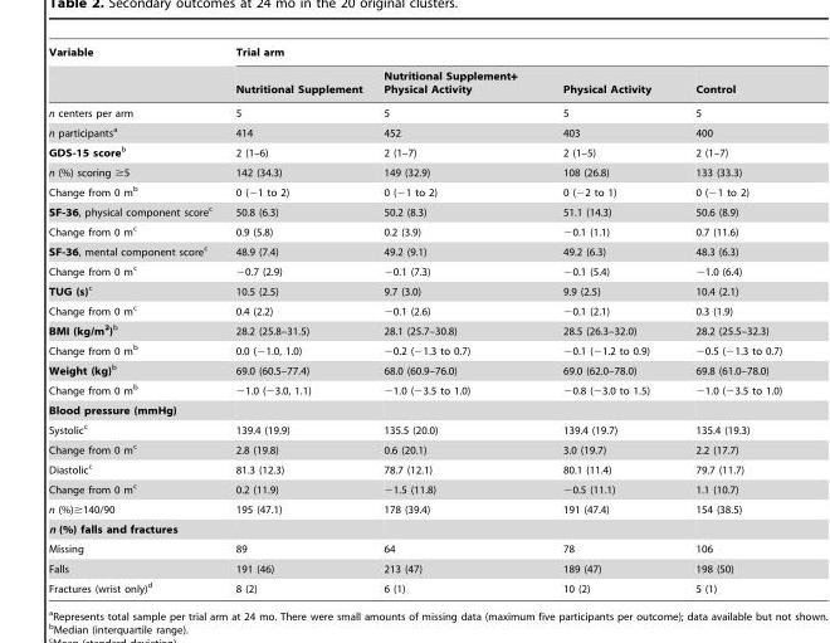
<table><thead><tr><td rowspan="2">Variable</td><td colspan="4">Trial arm</td></tr><tr><td>Nutritional Supplement</td><td>Nutritional Supplement+ Physical Activity</td><td>Physical Activity</td><td>Control</td></tr></thead><tbody><tr><td>n centers per arm</td><td>5</td><td>5</td><td>5</td><td>5</td></tr><tr><td>n participants<sup>a</sup></td><td>414</td><td>452</td><td>403</td><td>400</td></tr><tr><td>GDS-15 scoreb</td><td>2 (1–6)</td><td>2 (1–7)</td><td>2 (1–5)</td><td>2 (1–7)</td></tr><tr><td>n (%) scoring ≥5</td><td>142 (34.3)</td><td>149 (32.9)</td><td>108 (26.8)</td><td>133 (33.3)</td></tr><tr><td>Change from 0 m<sup>b</sup></td><td>0 (−1 to 2)</td><td>0 (−1 to 2)</td><td>0 (−2 to 1)</td><td>0 (−1 to 2)</td></tr><tr><td>SF-36, physical component score<sup>c</sup></td><td>50.8 (6.3)</td><td>50.2 (8.3)</td><td>51.1 (14.3)</td><td>50.6 (8.9)</td></tr><tr><td>Change from 0 m<sup>c</sup></td><td>0.9 (5.8)</td><td>0.2 (3.9)</td><td>−0.1 (1.1)</td><td>0.7 (11.6)</td></tr><tr><td>SF-36, mental component score<sup>c</sup></td><td>48.9 (7.4)</td><td>49.2 (9.1)</td><td>49.2 (6.3)</td><td>48.3 (6.3)</td></tr><tr><td>Change from 0 m<sup>c</sup></td><td>−0.7 (2.9)</td><td>−0.1 (7.3)</td><td>−0.1 (5.4)</td><td>−1.0 (6.4)</td></tr><tr><td>TUG (s)c</td><td>10.5 (2.5)</td><td>9.7 (3.0)</td><td>9.9 (2.5)</td><td>10.4 (2.1)</td></tr><tr><td>Change from 0 m<sup>c</sup></td><td>0.4 (2.2)</td><td>−0.1 (2.6)</td><td>−0.1 (2.1)</td><td>0.3 (1.9)</td></tr><tr><td>BMI (kg/m<sup>2</sup>)b</td><td>28.2 (25.8–31.5)</td><td>28.1 (25.7–30.8)</td><td>28.5 (26.3–32.0)</td><td>28.2 (25.5–32.3)</td></tr><tr><td>Change from 0 m<sup>b</sup></td><td>0.0 (−1.0, 1.0)</td><td>−0.2 (−1.3 to 0.7)</td><td>−0.1 (−1.2 to 0.9)</td><td>−0.5 (−1.3 to 0.7)</td></tr><tr><td>Weight (kg)b</td><td>69.0 (60.5–77.4)</td><td>68.0 (60.9–76.0)</td><td>69.0 (62.0–78.0)</td><td>69.8 (61.0–78.0)</td></tr><tr><td>Change from 0 m<sup>b</sup></td><td>−1.0 (−3.0, 1.1)</td><td>−1.0 (−3.5 to 1.0)</td><td>−0.8 (−3.0 to 1.5)</td><td>−1.0 (−3.5 to 1.0)</td></tr><tr><td colspan="5">Blood pressure (mmHg)</td></tr><tr><td>Systolic<sup>c</sup></td><td>139.4 (19.9)</td><td>135.5 (20.0)</td><td>139.4 (19.7)</td><td>135.4 (19.3)</td></tr><tr><td>Change from 0 m<sup>c</sup></td><td>2.8 (19.8)</td><td>0.6 (20.1)</td><td>3.0 (19.7)</td><td>2.2 (17.7)</td></tr><tr><td>Diastolic<sup>c</sup></td><td>81.3 (12.3)</td><td>78.7 (12.1)</td><td>80.1 (11.4)</td><td>79.7 (11.7)</td></tr><tr><td>Change from 0 m<sup>c</sup></td><td>0.2 (11.9)</td><td>−1.5 (11.8)</td><td>−0.5 (11.1)</td><td>1.1 (10.7)</td></tr><tr><td>n (%)≥140/90</td><td>195 (47.1)</td><td>178 (39.4)</td><td>191 (47.4)</td><td>154 (38.5)</td></tr><tr><td colspan="5">n (%) falls and fractures</td></tr><tr><td>Missing</td><td>89</td><td>64</td><td>78</td><td>106</td></tr><tr><td>Falls</td><td>191 (46)</td><td>213 (47)</td><td>189 (47)</td><td>198 (50)</td></tr><tr><td>Fractures (wrist only)<sup>d</sup></td><td>8 (2)</td><td>6 (1)</td><td>10 (2)</td><td>5 (1)</td></tr></tbody></table>